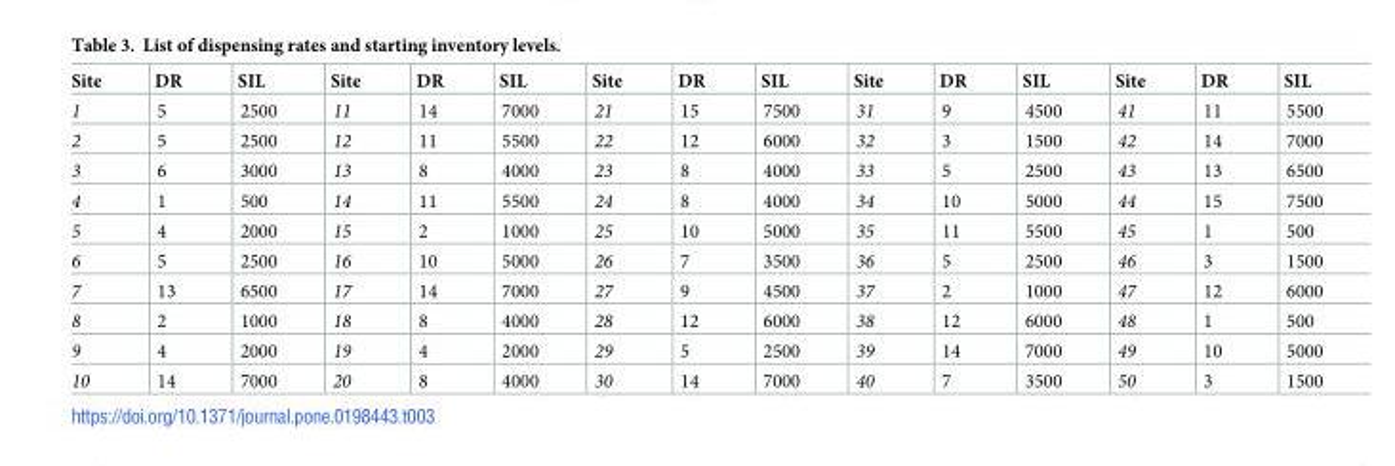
<table><thead><tr><td>Site</td><td>DR</td><td>SIL</td><td>Site</td><td>DR</td><td>SIL</td><td>Site</td><td>DR</td><td>SIL</td><td>Site</td><td>DR</td><td>SIL</td><td>Site</td><td>DR</td><td>SIL</td></tr></thead><tbody><tr><td>1</td><td>5</td><td>2500</td><td>11</td><td>14</td><td>7000</td><td>21</td><td>15</td><td>7500</td><td>31</td><td>9</td><td>4500</td><td>41</td><td>11</td><td>5500</td></tr><tr><td>2</td><td>5</td><td>2500</td><td>12</td><td>11</td><td>5500</td><td>22</td><td>12</td><td>6000</td><td>32</td><td>3</td><td>1500</td><td>42</td><td>14</td><td>7000</td></tr><tr><td>3</td><td>6</td><td>3000</td><td>13</td><td>8</td><td>4000</td><td>23</td><td>8</td><td>4000</td><td>33</td><td>5</td><td>2500</td><td>43</td><td>13</td><td>6500</td></tr><tr><td>4</td><td>1</td><td>500</td><td>14</td><td>11</td><td>5500</td><td>24</td><td>8</td><td>4000</td><td>34</td><td>10</td><td>5000</td><td>44</td><td>15</td><td>7500</td></tr><tr><td>5</td><td>4</td><td>2000</td><td>15</td><td>2</td><td>1000</td><td>25</td><td>10</td><td>5000</td><td>35</td><td>11</td><td>5500</td><td>45</td><td>1</td><td>500</td></tr><tr><td>6</td><td>5</td><td>2500</td><td>16</td><td>10</td><td>5000</td><td>26</td><td>7</td><td>3500</td><td>36</td><td>5</td><td>2500</td><td>46</td><td>3</td><td>1500</td></tr><tr><td>7</td><td>13</td><td>6500</td><td>17</td><td>14</td><td>7000</td><td>27</td><td>9</td><td>4500</td><td>37</td><td>2</td><td>1000</td><td>47</td><td>12</td><td>6000</td></tr><tr><td>8</td><td>2</td><td>1000</td><td>18</td><td>8</td><td>4000</td><td>28</td><td>12</td><td>6000</td><td>38</td><td>12</td><td>6000</td><td>48</td><td>1</td><td>500</td></tr><tr><td>9</td><td>4</td><td>2000</td><td>19</td><td>4</td><td>2000</td><td>29</td><td>5</td><td>2500</td><td>39</td><td>14</td><td>7000</td><td>49</td><td>10</td><td>5000</td></tr><tr><td>10</td><td>14</td><td>7000</td><td>20</td><td>8</td><td>4000</td><td>30</td><td>14</td><td>7000</td><td>40</td><td>7</td><td>3500</td><td>50</td><td>3</td><td>1500</td></tr></tbody></table>